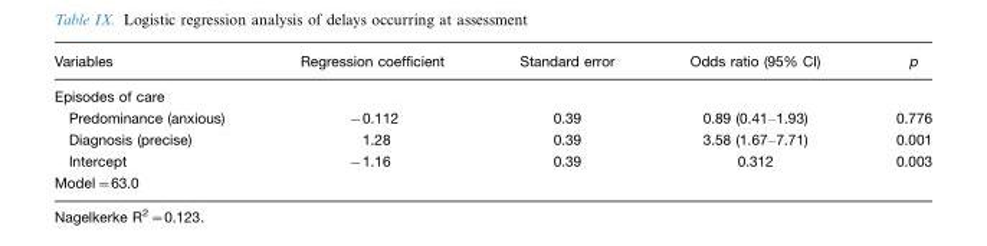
<table><thead><tr><td>Variables</td><td>Regression coefficient</td><td>Standard error</td><td>Odds ratio (95% CI)</td><td>p</td></tr></thead><tbody><tr><td colspan="5">Episodes of care</td></tr><tr><td>Predominance (anxious)</td><td>−0.112</td><td>0.39</td><td>0.89 (0.41–1.93)</td><td>0.776</td></tr><tr><td>Diagnosis (precise)</td><td>1.28</td><td>0.39</td><td>3.58 (1.67–7.71)</td><td>0.001</td></tr><tr><td>Intercept</td><td>−1.16</td><td>0.39</td><td>0.312</td><td>0.003</td></tr><tr><td>Model=63.0</td><td></td><td></td><td></td><td></td></tr></tbody></table>